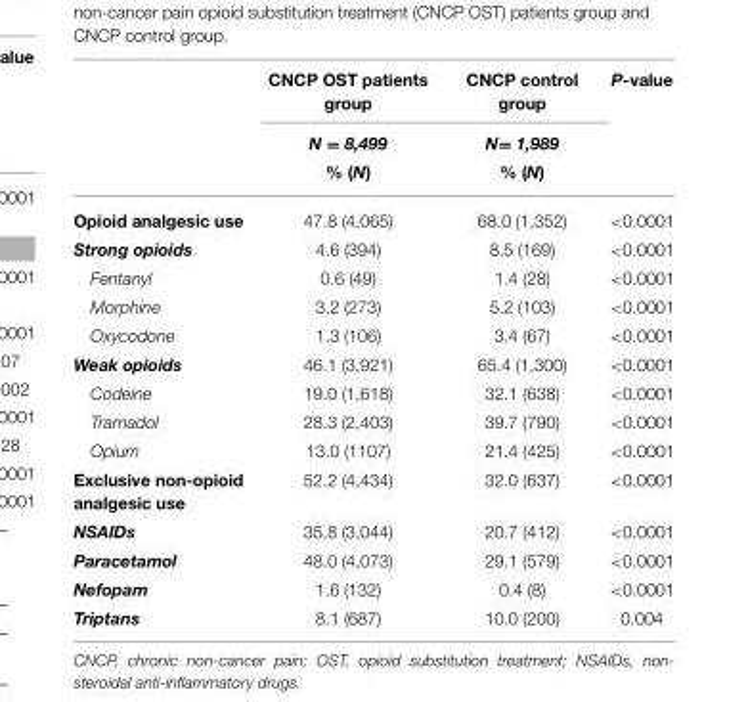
<table><thead><tr><td rowspan="3"></td><td rowspan="3">CNCP OST patients group N = 8,499 % (N)</td><td rowspan="3">CNCP control group N= 1,989 % (N)</td><td rowspan="3">P-value</td></tr><tr></tr><tr></tr></thead><tbody><tr><td>Opioid analgesic use</td><td>47.8 (4,065)</td><td>68.0 (1,352)</td><td>&lt;0.0001</td></tr><tr><td>Strong opioids</td><td>4.6 (394)</td><td>8.5 (169)</td><td>&lt;0.0001</td></tr><tr><td>Fentanyl</td><td>0.6 (49)</td><td>1.4 (28)</td><td>&lt;0.0001</td></tr><tr><td>Morphine</td><td>3.2 (273)</td><td>5.2 (103)</td><td>&lt;0.0001</td></tr><tr><td>Oxycodone</td><td>1.3 (106)</td><td>3.4 (67)</td><td>&lt;0.0001</td></tr><tr><td>Weak opioids</td><td>46.1 (3,921)</td><td>65.4 (1,300)</td><td>&lt;0.0001</td></tr><tr><td>Codeine</td><td>19.0 (1,618)</td><td>32.1 (638)</td><td>&lt;0.0001</td></tr><tr><td>Tramadol</td><td>28.3 (2,403)</td><td>39.7 (790)</td><td>&lt;0.0001</td></tr><tr><td>Opium</td><td>13.0 (1107)</td><td>21.4 (425)</td><td>&lt;0.0001</td></tr><tr><td>Exclusive non-opioid analgesic use</td><td>52.2 (4,434)</td><td>32.0 (637)</td><td>&lt;0.0001</td></tr><tr><td>NSAIDs</td><td>35.8 (3,044)</td><td>20.7 (412)</td><td>&lt;0.0001</td></tr><tr><td>Paracetamol</td><td>48.0 (4,073)</td><td>29.1 (579)</td><td>&lt;0.0001</td></tr><tr><td>Nefopam</td><td>1.6 (132)</td><td>0.4 (8)</td><td>&lt;0.0001</td></tr><tr><td>Triptans</td><td>8.1 (687)</td><td>10.0 (200)</td><td>0.004</td></tr></tbody></table>